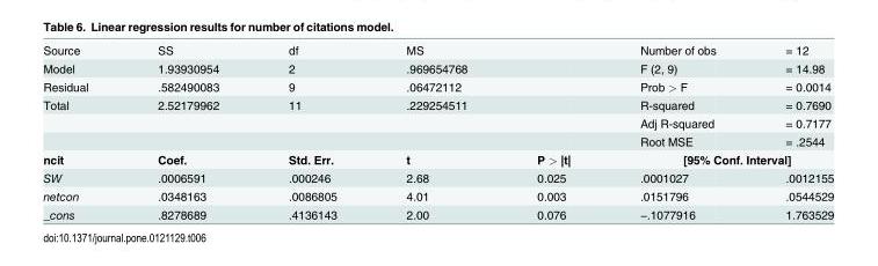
<table><tbody><tr><td>Source</td><td>SS</td><td>df</td><td>MS</td><td></td><td>Number of obs</td><td>= 12</td></tr><tr><td>Model</td><td>1.93930954</td><td>2</td><td>.969654768</td><td></td><td>F (2, 9)</td><td>= 14.98</td></tr><tr><td>Residual</td><td>.582490083</td><td>9</td><td>.06472112</td><td></td><td>Prob &gt; F</td><td>= 0.0014</td></tr><tr><td rowspan="3">Total</td><td>2.52179962</td><td>11</td><td>.229254511</td><td></td><td>R-squared</td><td>= 0.7690</td></tr><tr><td></td><td></td><td></td><td></td><td>Adj R-squared</td><td>= 0.7177</td></tr><tr><td></td><td></td><td></td><td></td><td>Root MSE</td><td>= .2544</td></tr><tr><td>ncit</td><td>Coef.</td><td>Std. Err.</td><td>t</td><td>P &gt; |t|</td><td colspan="2">[95% Conf. Interval]</td></tr><tr><td>SW</td><td>.0006591</td><td>.000246</td><td>2.68</td><td>0.025</td><td>.0001027</td><td>.0012155</td></tr><tr><td>netcon</td><td>.0348163</td><td>.0086805</td><td>4.01</td><td>0.003</td><td>.0151796</td><td>.0544529</td></tr><tr><td>_cons</td><td>.8278689</td><td>.4136143</td><td>2.00</td><td>0.076</td><td>−.1077916</td><td>1.763529</td></tr></tbody></table>